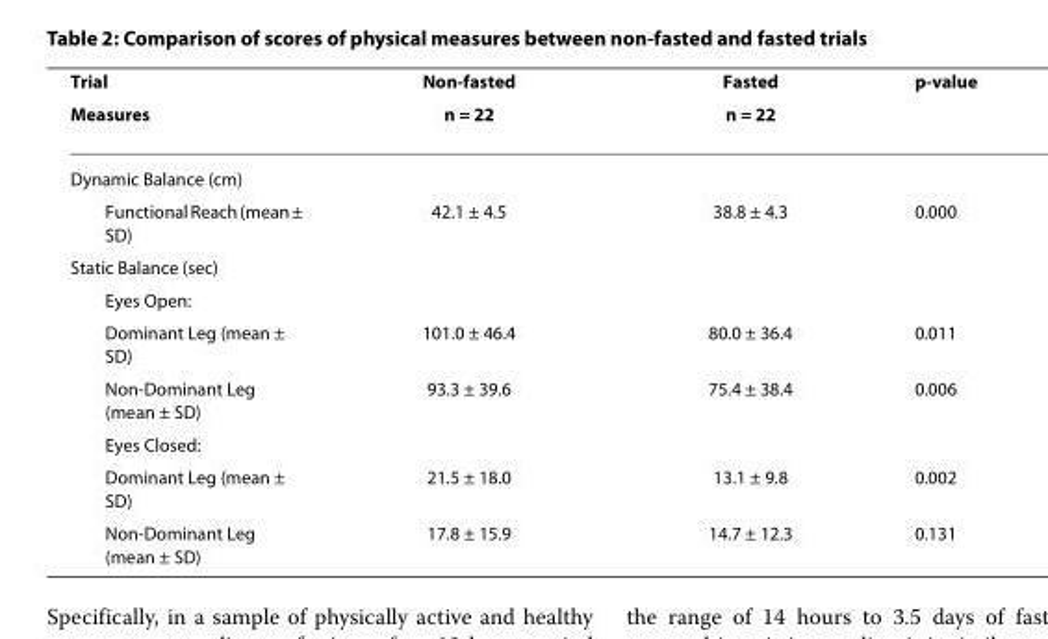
<table><thead><tr><td rowspan="2">Trial Measures</td><td rowspan="2">Non-fasted n = 22</td><td rowspan="2">Fasted n = 22</td><td rowspan="2">p-value</td></tr><tr></tr></thead><tbody><tr><td colspan="4">Dynamic Balance (cm)</td></tr><tr><td>Functional Reach (mean ± SD)</td><td>42.1 ± 4.5</td><td>38.8 ± 4.3</td><td>0.000</td></tr><tr><td colspan="4">Static Balance (sec)</td></tr><tr><td colspan="4">Eyes Open:</td></tr><tr><td>Dominant Leg (mean ± SD)</td><td>101.0 ± 46.4</td><td>80.0 ± 36.4</td><td>0.011</td></tr><tr><td>Non-Dominant Leg (mean ± SD)</td><td>93.3 ± 39.6</td><td>75.4 ± 38.4</td><td>0.006</td></tr><tr><td colspan="4">Eyes Closed:</td></tr><tr><td>Dominant Leg (mean ± SD)</td><td>21.5 ± 18.0</td><td>13.1 ± 9.8</td><td>0.002</td></tr><tr><td>Non-Dominant Leg (mean ± SD)</td><td>17.8 ± 15.9</td><td>14.7 ± 12.3</td><td>0.131</td></tr></tbody></table>